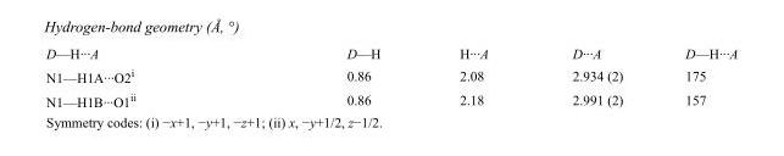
<table><tbody><tr><td>D—H···A</td><td>D—H</td><td>H···A</td><td>D···A</td><td>D—H···A</td></tr><tr><td>N1—H1A···O2<sup>i</sup></td><td>0.86</td><td>2.08</td><td>2.934 (2)</td><td>175</td></tr><tr><td>N1—H1B···O1<sup>ii</sup></td><td>0.86</td><td>2.18</td><td>2.991 (2)</td><td>157</td></tr></tbody></table>